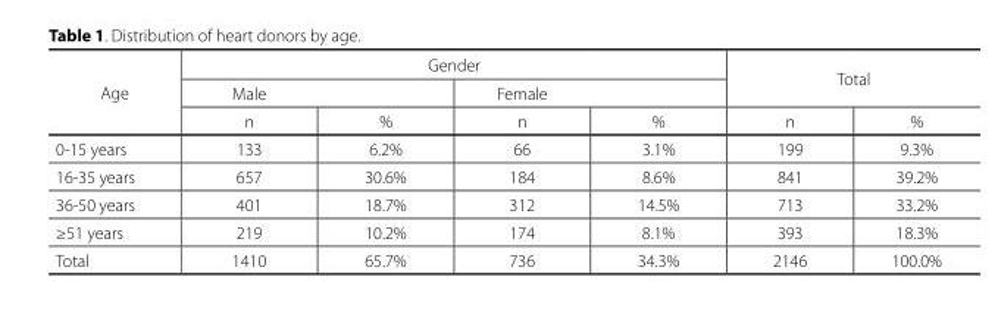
<table><thead><tr><td rowspan="3">Age</td><td colspan="4">Gender</td><td rowspan="2" colspan="2">Total</td></tr><tr><td colspan="2">Male</td><td colspan="2">Female</td></tr><tr><td>n</td><td>%</td><td>n</td><td>%</td><td>n</td><td>%</td></tr></thead><tbody><tr><td>0-15 years</td><td>133</td><td>6.2%</td><td>66</td><td>3.1%</td><td>199</td><td>9.3%</td></tr><tr><td>16-35 years</td><td>657</td><td>30.6%</td><td>184</td><td>8.6%</td><td>841</td><td>39.2%</td></tr><tr><td>36-50 years</td><td>401</td><td>18.7%</td><td>312</td><td>14.5%</td><td>713</td><td>33.2%</td></tr><tr><td>≥51 years</td><td>219</td><td>10.2%</td><td>174</td><td>8.1%</td><td>393</td><td>18.3%</td></tr><tr><td>Total</td><td>1410</td><td>65.7%</td><td>736</td><td>34.3%</td><td>2146</td><td>100.0%</td></tr></tbody></table>